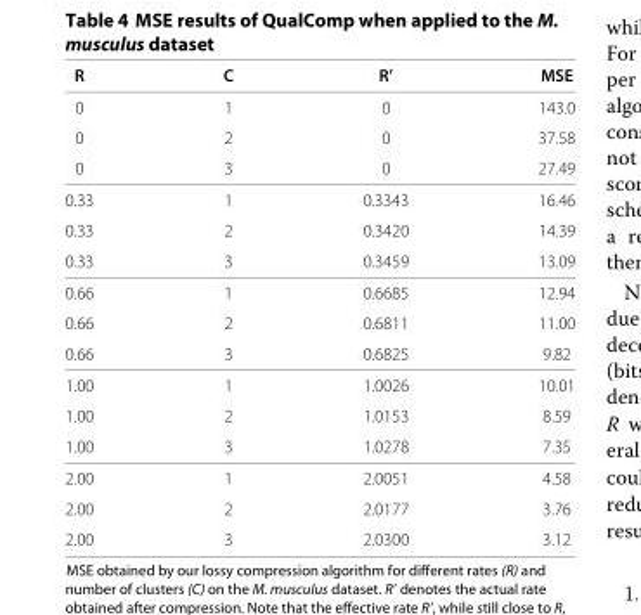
<table><thead><tr><td>R</td><td>C</td><td>R’</td><td>MSE</td></tr></thead><tbody><tr><td>0</td><td>1</td><td>0</td><td>143.0</td></tr><tr><td>0</td><td>2</td><td>0</td><td>37.58</td></tr><tr><td>0</td><td>3</td><td>0</td><td>27.49</td></tr><tr><td>0.33</td><td>1</td><td>0.3343</td><td>16.46</td></tr><tr><td>0.33</td><td>2</td><td>0.3420</td><td>14.39</td></tr><tr><td>0.33</td><td>3</td><td>0.3459</td><td>13.09</td></tr><tr><td>0.66</td><td>1</td><td>0.6685</td><td>12.94</td></tr><tr><td>0.66</td><td>2</td><td>0.6811</td><td>11.00</td></tr><tr><td>0.66</td><td>3</td><td>0.6825</td><td>9.82</td></tr><tr><td>1.00</td><td>1</td><td>1.0026</td><td>10.01</td></tr><tr><td>1.00</td><td>2</td><td>1.0153</td><td>8.59</td></tr><tr><td>1.00</td><td>3</td><td>1.0278</td><td>7.35</td></tr><tr><td>2.00</td><td>1</td><td>2.0051</td><td>4.58</td></tr><tr><td>2.00</td><td>2</td><td>2.0177</td><td>3.76</td></tr><tr><td>2.00</td><td>3</td><td>2.0300</td><td>3.12</td></tr></tbody></table>